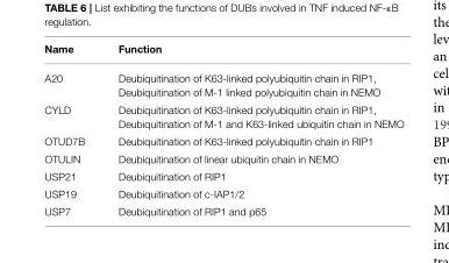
<table><thead><tr><td>Name</td><td>Function</td></tr></thead><tbody><tr><td>A20</td><td>Deubiquitination of K63-linked polyubiquitin chain in RIP1, Deubiquitination of M-1 linked polyubiquitin chain in NEMO</td></tr><tr><td>CYLD</td><td>Deubiquitination of K63-linked polyubiquitin chain in RIP1, Deubiquitination of M-1 and K63-linked ubiquitin chain in NEMO</td></tr><tr><td>OTUD7B</td><td>Deubiquitination of K63-linked polyubiquitin chain in RIP1</td></tr><tr><td>OTULIN</td><td>Deubiquitination of linear ubiquitin chain in NEMO</td></tr><tr><td>USP21</td><td>Deubiquitination of RIP1</td></tr><tr><td>USP19</td><td>Deubiquitination of c-IAP1/2</td></tr><tr><td>USP7</td><td>Deubiquitination of RIP1 and p65</td></tr></tbody></table>